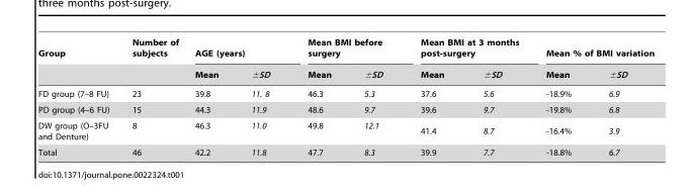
<table><thead><tr><td rowspan="2">Group</td><td rowspan="2">Number of subjects</td><td colspan="2">AGE (years)</td><td colspan="2">Mean BMI before surgery</td><td colspan="2">Mean BMI at 3 months post-surgery</td><td colspan="2">Mean % of BMI variation</td></tr><tr><td>Mean</td><td>±SD</td><td>Mean</td><td>±SD</td><td>Mean</td><td>±SD</td><td>Mean</td><td>±SD</td></tr></thead><tbody><tr><td>FD group (7–8 FU)</td><td>23</td><td>39.8</td><td>11. 8</td><td>46.3</td><td>5.3</td><td>37.6</td><td>5.6</td><td>-18.9%</td><td>6.9</td></tr><tr><td>PD group (4–6 FU)</td><td>15</td><td>44.3</td><td>11.9</td><td>48.6</td><td>9.7</td><td>39.6</td><td>9.7</td><td>-19.8%</td><td>6.8</td></tr><tr><td>DW group (O–3FU and Denture)</td><td>8</td><td>46.3</td><td>11.0</td><td>49.8</td><td>12.1</td><td>41.4</td><td>8.7</td><td>-16.4%</td><td>3.9</td></tr><tr><td>Total</td><td>46</td><td>42.2</td><td>11.8</td><td>47.7</td><td>8.3</td><td>39.9</td><td>7.7</td><td>-18.8%</td><td>6.7</td></tr></tbody></table>